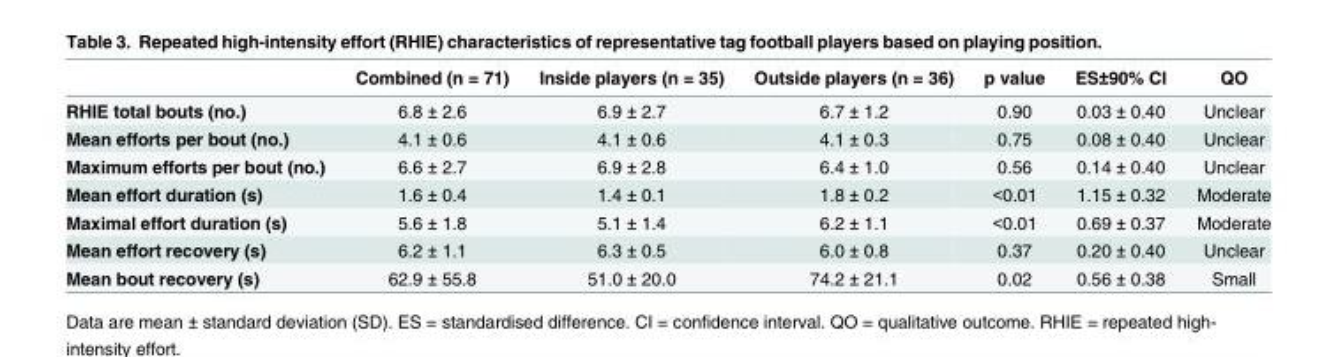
<table><thead><tr><td></td><td>Combined (n = 71)</td><td>Inside players (n = 35)</td><td>Outside players (n = 36)</td><td>p value</td><td>ES±90% CI</td><td>QO</td></tr></thead><tbody><tr><td>RHIE total bouts (no.)</td><td>6.8 ± 2.6</td><td>6.9 ± 2.7</td><td>6.7 ± 1.2</td><td>0.90</td><td>0.03 ± 0.40</td><td>Unclear</td></tr><tr><td>Mean efforts per bout (no.)</td><td>4.1 ± 0.6</td><td>4.1 ± 0.6</td><td>4.1 ± 0.3</td><td>0.75</td><td>0.08 ± 0.40</td><td>Unclear</td></tr><tr><td>Maximum efforts per bout (no.)</td><td>6.6 ± 2.7</td><td>6.9 ± 2.8</td><td>6.4 ± 1.0</td><td>0.56</td><td>0.14 ± 0.40</td><td>Unclear</td></tr><tr><td>Mean effort duration (s)</td><td>1.6 ± 0.4</td><td>1.4 ± 0.1</td><td>1.8 ± 0.2</td><td>&lt;0.01</td><td>1.15 ± 0.32</td><td>Moderate</td></tr><tr><td>Maximal effort duration (s)</td><td>5.6 ± 1.8</td><td>5.1 ± 1.4</td><td>6.2 ± 1.1</td><td>&lt;0.01</td><td>0.69 ± 0.37</td><td>Moderate</td></tr><tr><td>Mean effort recovery (s)</td><td>6.2 ± 1.1</td><td>6.3 ± 0.5</td><td>6.0 ± 0.8</td><td>0.37</td><td>0.20 ± 0.40</td><td>Unclear</td></tr><tr><td>Mean bout recovery (s)</td><td>62.9 ± 55.8</td><td>51.0 ± 20.0</td><td>74.2 ± 21.1</td><td>0.02</td><td>0.56 ± 0.38</td><td>Small</td></tr></tbody></table>